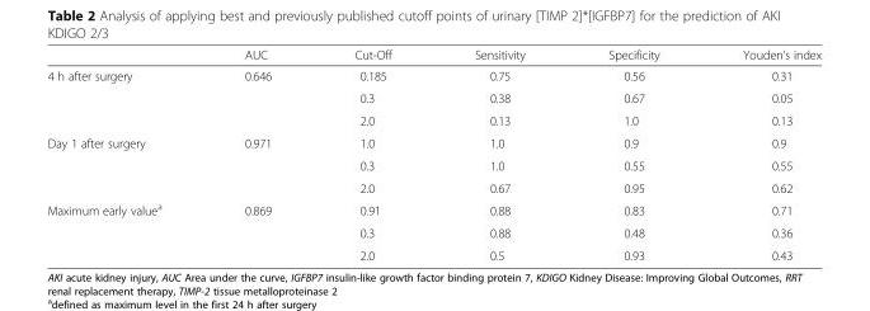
<table><thead><tr><td></td><td>AUC</td><td>Cut-Off</td><td>Sensitivity</td><td>Specificity</td><td>Youden’s index</td></tr></thead><tbody><tr><td rowspan="3">4 h after surgery</td><td rowspan="3">0.646</td><td>0.185</td><td>0.75</td><td>0.56</td><td>0.31</td></tr><tr><td>0.3</td><td>0.38</td><td>0.67</td><td>0.05</td></tr><tr><td>2.0</td><td>0.13</td><td>1.0</td><td>0.13</td></tr><tr><td rowspan="3">Day 1 after surgery</td><td rowspan="3">0.971</td><td>1.0</td><td>1.0</td><td>0.9</td><td>0.9</td></tr><tr><td>0.3</td><td>1.0</td><td>0.55</td><td>0.55</td></tr><tr><td>2.0</td><td>0.67</td><td>0.95</td><td>0.62</td></tr><tr><td rowspan="3">Maximum early value<sup>a</sup></td><td rowspan="3">0.869</td><td>0.91</td><td>0.88</td><td>0.83</td><td>0.71</td></tr><tr><td>0.3</td><td>0.88</td><td>0.48</td><td>0.36</td></tr><tr><td>2.0</td><td>0.5</td><td>0.93</td><td>0.43</td></tr></tbody></table>